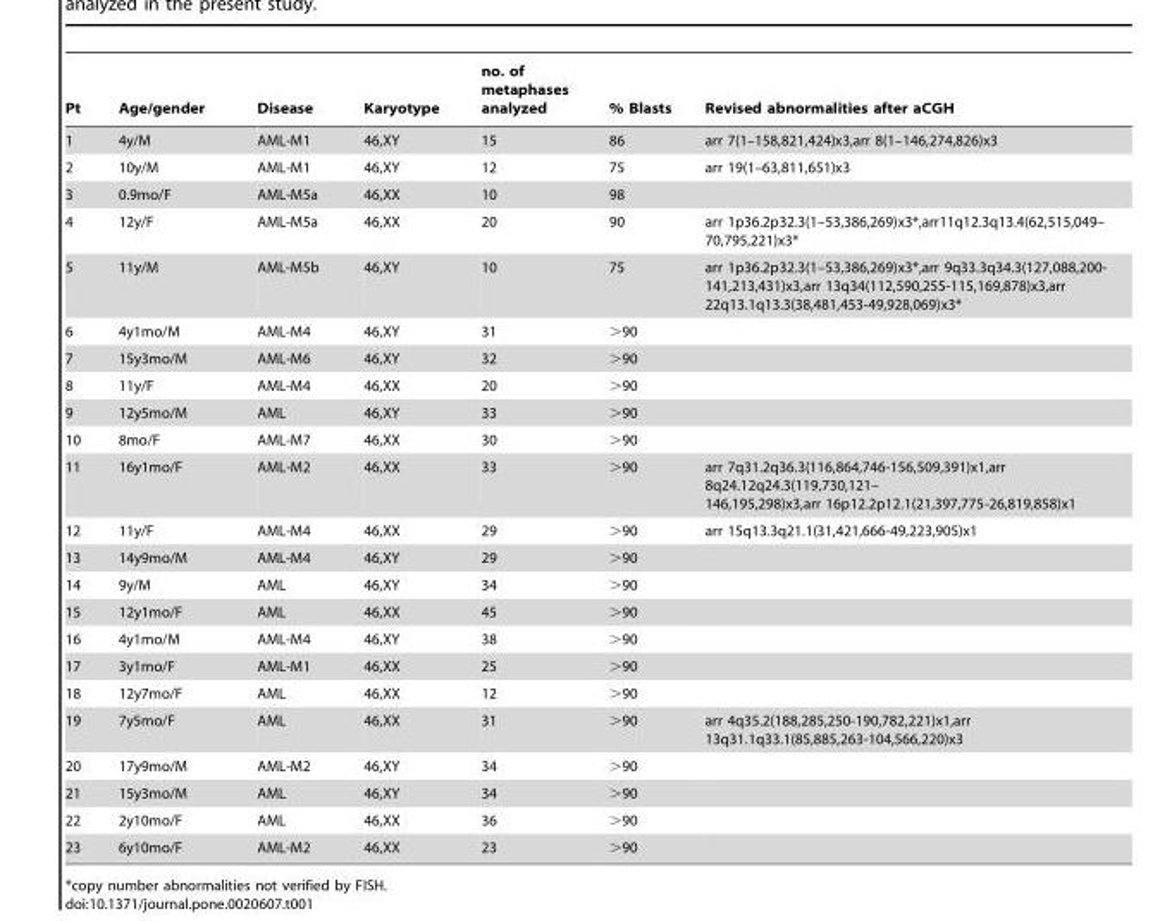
<table><thead><tr><td>Pt</td><td>Age/gender</td><td>Disease</td><td>Karyotype</td><td>no. of metaphases analyzed</td><td>% Blasts</td><td>Revised abnormalities after aCGH</td></tr></thead><tbody><tr><td>1</td><td>4y/M</td><td>AML-M1</td><td>46,XY</td><td>15</td><td>86</td><td>arr 7(1–158,821,424)x3,arr 8(1–146,274,826)x3</td></tr><tr><td>2</td><td>10y/M</td><td>AML-M1</td><td>46,XY</td><td>12</td><td>75</td><td>arr 19(1–63,811,651)x3</td></tr><tr><td>3</td><td>0.9mo/F</td><td>AML-M5a</td><td>46,XX</td><td>10</td><td>98</td><td></td></tr><tr><td>4</td><td>12y/F</td><td>AML-M5a</td><td>46,XX</td><td>20</td><td>90</td><td>arr 1p36.2p32.3(1–53,386,269)x3*,arr11q12.3q13.4(62,515,049– 70,795,221)x3*</td></tr><tr><td>5</td><td>11y/M</td><td>AML-M5b</td><td>46,XY</td><td>10</td><td>75</td><td>arr 1p36.2p32.3(1–53,386,269)x3*,arr 9q33.3q34.3(127,088,200- 141,213,431)x3,arr 13q34(112,590,255-115,169,878)x3,arr 22q13.1q13.3(38,481,453-49,928,069)x3*</td></tr><tr><td>6</td><td>4y1mo/M</td><td>AML-M4</td><td>46,XY</td><td>31</td><td>&gt;90</td><td></td></tr><tr><td>7</td><td>15y3mo/M</td><td>AML-M6</td><td>46,XY</td><td>32</td><td>&gt;90</td><td></td></tr><tr><td>8</td><td>11y/F</td><td>AML-M4</td><td>46,XX</td><td>20</td><td>&gt;90</td><td></td></tr><tr><td>9</td><td>12y5mo/M</td><td>AML</td><td>46,XY</td><td>33</td><td>&gt;90</td><td></td></tr><tr><td>10</td><td>8mo/F</td><td>AML-M7</td><td>46,XX</td><td>30</td><td>&gt;90</td><td></td></tr><tr><td>11</td><td>16y1mo/F</td><td>AML-M2</td><td>46,XX</td><td>33</td><td>&gt;90</td><td>arr 7q31.2q36.3(116,864,746-156,509,391)x1,arr 8q24.12q24.3(119,730,121– 146,195,298)x3,arr 16p12.2p12.1(21,397,775-26,819,858)x1</td></tr><tr><td>12</td><td>11y/F</td><td>AML-M4</td><td>46,XX</td><td>29</td><td>&gt;90</td><td>arr 15q13.3q21.1(31,421,666-49,223,905)x1</td></tr><tr><td>13</td><td>14y9mo/M</td><td>AML-M4</td><td>46,XY</td><td>29</td><td>&gt;90</td><td></td></tr><tr><td>14</td><td>9y/M</td><td>AML</td><td>46,XY</td><td>34</td><td>&gt;90</td><td></td></tr><tr><td>15</td><td>12y1mo/F</td><td>AML</td><td>46,XX</td><td>45</td><td>&gt;90</td><td></td></tr><tr><td>16</td><td>4y1mo/M</td><td>AML-M4</td><td>46,XY</td><td>38</td><td>&gt;90</td><td></td></tr><tr><td>17</td><td>3y1mo/F</td><td>AML-M1</td><td>46,XX</td><td>25</td><td>&gt;90</td><td></td></tr><tr><td>18</td><td>12y7mo/F</td><td>AML</td><td>46,XX</td><td>12</td><td>&gt;90</td><td></td></tr><tr><td>19</td><td>7y5mo/F</td><td>AML</td><td>46,XX</td><td>31</td><td>&gt;90</td><td>arr 4q35.2(188,285,250-190,782,221)x1,arr 13q31.1q33.1(85,885,263-104,566,220)x3</td></tr><tr><td>20</td><td>17y9mo/M</td><td>AML-M2</td><td>46,XY</td><td>34</td><td>&gt;90</td><td></td></tr><tr><td>21</td><td>15y3mo/M</td><td>AML</td><td>46,XY</td><td>34</td><td>&gt;90</td><td></td></tr><tr><td>22</td><td>2y10mo/F</td><td>AML</td><td>46,XX</td><td>36</td><td>&gt;90</td><td></td></tr><tr><td>23</td><td>6y10mo/F</td><td>AML-M2</td><td>46,XX</td><td>23</td><td>&gt;90</td><td></td></tr></tbody></table>